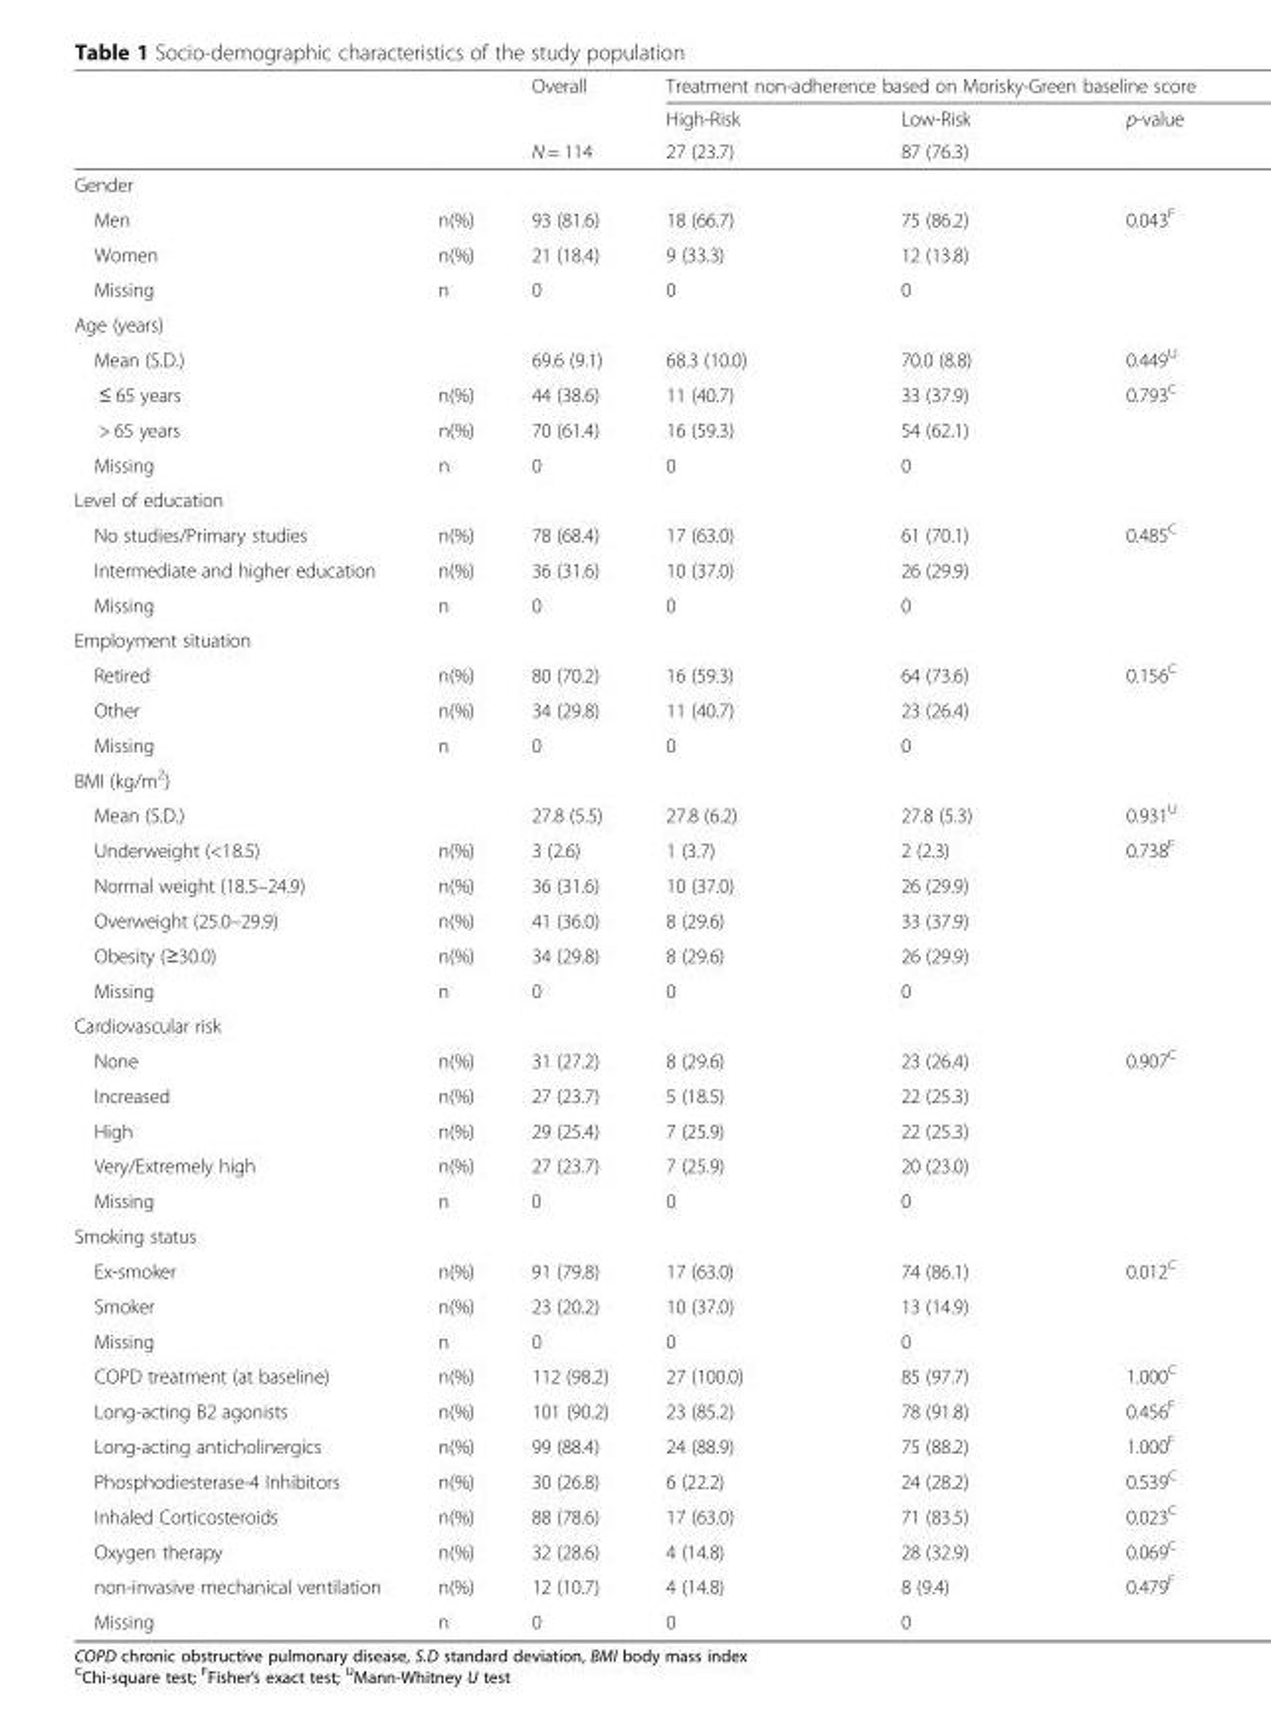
<table><thead><tr><td rowspan="3"></td><td rowspan="3"></td><td rowspan="3">Overall N = 114</td><td colspan="3">Treatment non-adherence based on Morisky-Green baseline score</td></tr><tr><td rowspan="2">High-Risk 27 (23.7)</td><td rowspan="2">Low-Risk 87 (76.3)</td><td rowspan="2">p-value</td></tr><tr></tr></thead><tbody><tr><td colspan="6">Gender</td></tr><tr><td>Men</td><td>n(%)</td><td>93 (81.6)</td><td>18 (66.7)</td><td>75 (86.2)</td><td>0.043<sup>F</sup></td></tr><tr><td>Women</td><td>n(%)</td><td>21 (18.4)</td><td>9 (33.3)</td><td>12 (13.8)</td><td></td></tr><tr><td>Missing</td><td>n</td><td>0</td><td>0</td><td>0</td><td></td></tr><tr><td colspan="6">Age (years)</td></tr><tr><td>Mean (S.D.)</td><td></td><td>69.6 (9.1)</td><td>68.3 (10.0)</td><td>70.0 (8.8)</td><td>0.449<sup>U</sup></td></tr><tr><td>≤ 65 years</td><td>n(%)</td><td>44 (38.6)</td><td>11 (40.7)</td><td>33 (37.9)</td><td>0.793<sup>C</sup></td></tr><tr><td>&gt; 65 years</td><td>n(%)</td><td>70 (61.4)</td><td>16 (59.3)</td><td>54 (62.1)</td><td></td></tr><tr><td>Missing</td><td>n</td><td>0</td><td>0</td><td>0</td><td></td></tr><tr><td colspan="6">Level of education</td></tr><tr><td>No studies/Primary studies</td><td>n(%)</td><td>78 (68.4)</td><td>17 (63.0)</td><td>61 (70.1)</td><td>0.485<sup>C</sup></td></tr><tr><td>Intermediate and higher education</td><td>n(%)</td><td>36 (31.6)</td><td>10 (37.0)</td><td>26 (29.9)</td><td></td></tr><tr><td>Missing</td><td>n</td><td>0</td><td>0</td><td>0</td><td></td></tr><tr><td colspan="6">Employment situation</td></tr><tr><td>Retired</td><td>n(%)</td><td>80 (70.2)</td><td>16 (59.3)</td><td>64 (73.6)</td><td>0.156<sup>C</sup></td></tr><tr><td>Other</td><td>n(%)</td><td>34 (29.8)</td><td>11 (40.7)</td><td>23 (26.4)</td><td></td></tr><tr><td>Missing</td><td>n</td><td>0</td><td>0</td><td>0</td><td></td></tr><tr><td colspan="6">BMI (kg/m<sup>2</sup>)</td></tr><tr><td>Mean (S.D.)</td><td></td><td>27.8 (5.5)</td><td>27.8 (6.2)</td><td>27.8 (5.3)</td><td>0.931<sup>U</sup></td></tr><tr><td>Underweight (&lt;18.5)</td><td>n(%)</td><td>3 (2.6)</td><td>1 (3.7)</td><td>2 (2.3)</td><td>0.738<sup>F</sup></td></tr><tr><td>Normal weight (18.5–24.9)</td><td>n(%)</td><td>36 (31.6)</td><td>10 (37.0)</td><td>26 (29.9)</td><td></td></tr><tr><td>Overweight (25.0–29.9)</td><td>n(%)</td><td>41 (36.0)</td><td>8 (29.6)</td><td>33 (37.9)</td><td></td></tr><tr><td>Obesity (≥30.0)</td><td>n(%)</td><td>34 (29.8)</td><td>8 (29.6)</td><td>26 (29.9)</td><td></td></tr><tr><td>Missing</td><td>n</td><td>0</td><td>0</td><td>0</td><td></td></tr><tr><td colspan="6">Cardiovascular risk</td></tr><tr><td>None</td><td>n(%)</td><td>31 (27.2)</td><td>8 (29.6)</td><td>23 (26.4)</td><td>0.907<sup>C</sup></td></tr><tr><td>Increased</td><td>n(%)</td><td>27 (23.7)</td><td>5 (18.5)</td><td>22 (25.3)</td><td></td></tr><tr><td>High</td><td>n(%)</td><td>29 (25.4)</td><td>7 (25.9)</td><td>22 (25.3)</td><td></td></tr><tr><td>Very/Extremely high</td><td>n(%)</td><td>27 (23.7)</td><td>7 (25.9)</td><td>20 (23.0)</td><td></td></tr><tr><td>Missing</td><td>n</td><td>0</td><td>0</td><td>0</td><td></td></tr><tr><td colspan="6">Smoking status</td></tr><tr><td>Ex-smoker</td><td>n(%)</td><td>91 (79.8)</td><td>17 (63.0)</td><td>74 (86.1)</td><td>0.012<sup>C</sup></td></tr><tr><td>Smoker</td><td>n(%)</td><td>23 (20.2)</td><td>10 (37.0)</td><td>13 (14.9)</td><td></td></tr><tr><td>Missing</td><td>n</td><td>0</td><td>0</td><td>0</td><td></td></tr><tr><td>COPD treatment (at baseline)</td><td>n(%)</td><td>112 (98.2)</td><td>27 (100.0)</td><td>85 (97.7)</td><td>1.000<sup>C</sup></td></tr><tr><td>Long-acting B2 agonists</td><td>n(%)</td><td>101 (90.2)</td><td>23 (85.2)</td><td>78 (91.8)</td><td>0.456<sup>F</sup></td></tr><tr><td>Long-acting anticholinergics</td><td>n(%)</td><td>99 (88.4)</td><td>24 (88.9)</td><td>75 (88.2)</td><td>1.000<sup>F</sup></td></tr><tr><td>Phosphodiesterase-4 Inhibitors</td><td>n(%)</td><td>30 (26.8)</td><td>6 (22.2)</td><td>24 (28.2)</td><td>0.539<sup>C</sup></td></tr><tr><td>Inhaled Corticosteroids</td><td>n(%)</td><td>88 (78.6)</td><td>17 (63.0)</td><td>71 (83.5)</td><td>0.023<sup>C</sup></td></tr><tr><td>Oxygen therapy</td><td>n(%)</td><td>32 (28.6)</td><td>4 (14.8)</td><td>28 (32.9)</td><td>0.069<sup>C</sup></td></tr><tr><td>non-invasive mechanical ventilation</td><td>n(%)</td><td>12 (10.7)</td><td>4 (14.8)</td><td>8 (9.4)</td><td>0.479<sup>F</sup></td></tr><tr><td>Missing</td><td>n</td><td>0</td><td>0</td><td>0</td><td></td></tr></tbody></table>